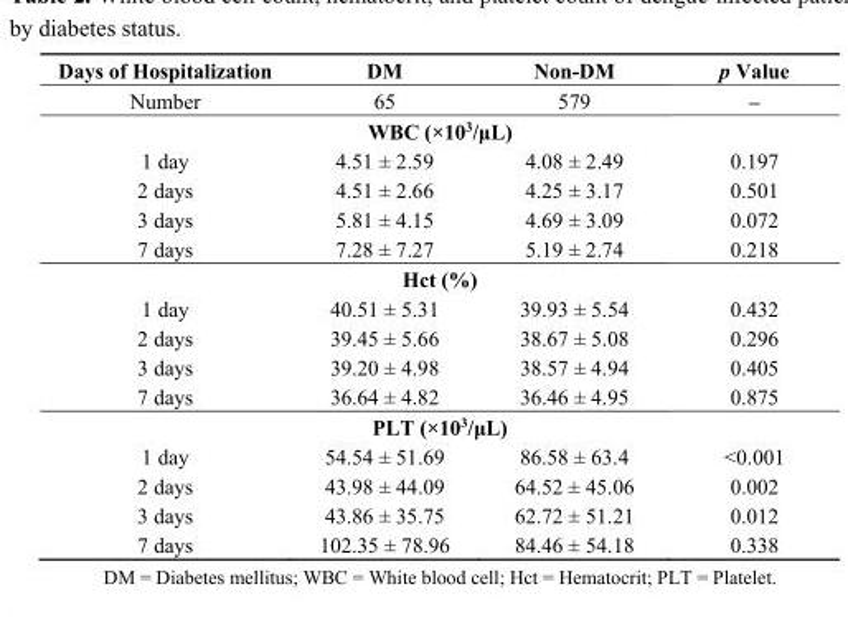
<table><thead><tr><td>Days of Hospitalization</td><td>DM</td><td>Non-DM</td><td>p Value</td></tr></thead><tbody><tr><td>Number</td><td>65</td><td>579</td><td>–</td></tr><tr><td colspan="4">WBC (×10<sup>3</sup>/μL)</td></tr><tr><td>1 day</td><td>4.51 ± 2.59</td><td>4.08 ± 2.49</td><td>0.197</td></tr><tr><td>2 days</td><td>4.51 ± 2.66</td><td>4.25 ± 3.17</td><td>0.501</td></tr><tr><td>3 days</td><td>5.81 ± 4.15</td><td>4.69 ± 3.09</td><td>0.072</td></tr><tr><td>7 days</td><td>7.28 ± 7.27</td><td>5.19 ± 2.74</td><td>0.218</td></tr><tr><td colspan="4">Hct (%)</td></tr><tr><td>1 day</td><td>40.51 ± 5.31</td><td>39.93 ± 5.54</td><td>0.432</td></tr><tr><td>2 days</td><td>39.45 ± 5.66</td><td>38.67 ± 5.08</td><td>0.296</td></tr><tr><td>3 days</td><td>39.20 ± 4.98</td><td>38.57 ± 4.94</td><td>0.405</td></tr><tr><td>7 days</td><td>36.64 ± 4.82</td><td>36.46 ± 4.95</td><td>0.875</td></tr><tr><td colspan="4">PLT (×10<sup>3</sup>/μL)</td></tr><tr><td>1 day</td><td>54.54 ± 51.69</td><td>86.58 ± 63.4</td><td>&lt;0.001</td></tr><tr><td>2 days</td><td>43.98 ± 44.09</td><td>64.52 ± 45.06</td><td>0.002</td></tr><tr><td>3 days</td><td>43.86 ± 35.75</td><td>62.72 ± 51.21</td><td>0.012</td></tr><tr><td>7 days</td><td>102.35 ± 78.96</td><td>84.46 ± 54.18</td><td>0.338</td></tr></tbody></table>